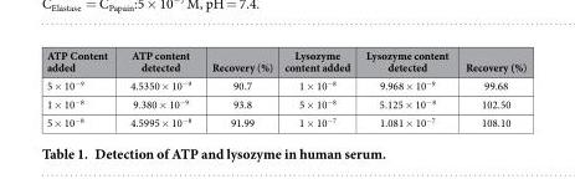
<table><thead><tr><td>ATP Content added</td><td>ATP content detected</td><td>Recovery (%)</td><td>Lysozyme content added</td><td>Lysozyme content detected</td><td>Recovery (%)</td></tr></thead><tbody><tr><td>5 × 10<sup>−9</sup></td><td>4.5350 × 10<sup>−9</sup></td><td>90.7</td><td>1 × 10<sup>−8</sup></td><td>9.968 × 10<sup>−9</sup></td><td>99.68</td></tr><tr><td>1 × 10<sup>−8</sup></td><td>9.380 × 10<sup>−9</sup></td><td>93.8</td><td>5 × 10<sup>−8</sup></td><td>5.125 × 10<sup>− 8</sup></td><td>102.50</td></tr><tr><td>5 × 10<sup>−8</sup></td><td>4.5995 × 10<sup>−8</sup></td><td>91.99</td><td>1 × 10<sup>−7</sup></td><td>1.081 × 10<sup>−7</sup></td><td>108.10</td></tr></tbody></table>